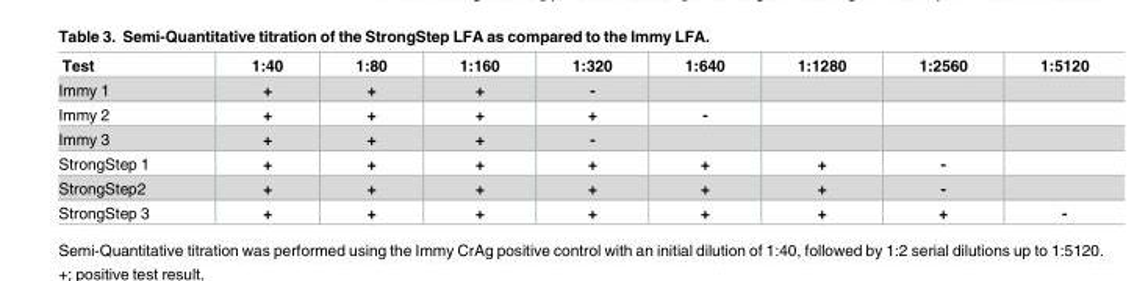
<table><thead><tr><td>Test</td><td>1:40</td><td>1:80</td><td>1:160</td><td>1:320</td><td>1:640</td><td>1:1280</td><td>1:2560</td><td>1:5120</td></tr></thead><tbody><tr><td>Immy 1</td><td>+</td><td>+</td><td>+</td><td>-</td><td></td><td></td><td></td><td></td></tr><tr><td>Immy 2</td><td>+</td><td>+</td><td>+</td><td>+</td><td>-</td><td></td><td></td><td></td></tr><tr><td>Immy 3</td><td>+</td><td>+</td><td>+</td><td>-</td><td></td><td></td><td></td><td></td></tr><tr><td>StrongStep 1</td><td>+</td><td>+</td><td>+</td><td>+</td><td>+</td><td>+</td><td>-</td><td></td></tr><tr><td>StrongStep2</td><td>+</td><td>+</td><td>+</td><td>+</td><td>+</td><td>+</td><td>-</td><td></td></tr><tr><td>StrongStep 3</td><td>+</td><td>+</td><td>+</td><td>+</td><td>+</td><td>+</td><td>+</td><td>-</td></tr></tbody></table>